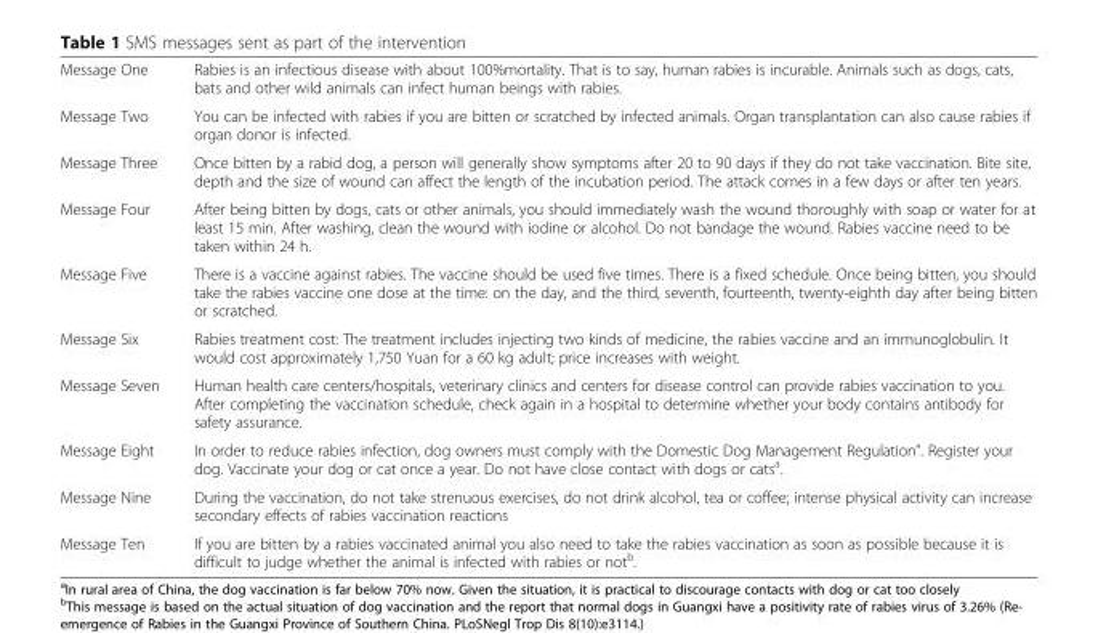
<table><tbody><tr><td>Message One</td><td>Rabies is an infectious disease with about 100%mortality. That is to say, human rabies is incurable. Animals such as dogs, cats, bats and other wild animals can infect human beings with rabies.</td></tr><tr><td>Message Two</td><td>You can be infected with rabies if you are bitten or scratched by infected animals. Organ transplantation can also cause rabies if organ donor is infected.</td></tr><tr><td>Message Three</td><td>Once bitten by a rabid dog, a person will generally show symptoms after 20 to 90 days if they do not take vaccination. Bite site, depth and the size of wound can affect the length of the incubation period. The attack comes in a few days or after ten years.</td></tr><tr><td>Message Four</td><td>After being bitten by dogs, cats or other animals, you should immediately wash the wound thoroughly with soap or water for at least 15 min. After washing, clean the wound with iodine or alcohol. Do not bandage the wound. Rabies vaccine need to be taken within 24 h.</td></tr><tr><td>Message Five</td><td>There is a vaccine against rabies. The vaccine should be used five times. There is a fixed schedule. Once being bitten, you should take the rabies vaccine one dose at the time: on the day, and the third, seventh, fourteenth, twenty-eighth day after being bitten or scratched.</td></tr><tr><td>Message Six</td><td>Rabies treatment cost: The treatment includes injecting two kinds of medicine, the rabies vaccine and an immunoglobulin. It would cost approximately 1,750 Yuan for a 60 kg adult; price increases with weight.</td></tr><tr><td>Message Seven</td><td>Human health care centers/hospitals, veterinary clinics and centers for disease control can provide rabies vaccination to you. After completing the vaccination schedule, check again in a hospital to determine whether your body contains antibody for safety assurance.</td></tr><tr><td>Message Eight</td><td>In order to reduce rabies infection, dog owners must comply with the Domestic Dog Management Regulation”. Register your dog. Vaccinate your dog or cat once a year. Do not have close contact with dogs or cats<sup>a</sup>.</td></tr><tr><td>Message Nine</td><td>During the vaccination, do not take strenuous exercises, do not drink alcohol, tea or coffee; intense physical activity can increase secondary effects of rabies vaccination reactions</td></tr><tr><td>Message Ten</td><td>If you are bitten by a rabies vaccinated animal you also need to take the rabies vaccination as soon as possible because it is difficult to judge whether the animal is infected with rabies or not<sup>b</sup>.</td></tr></tbody></table>